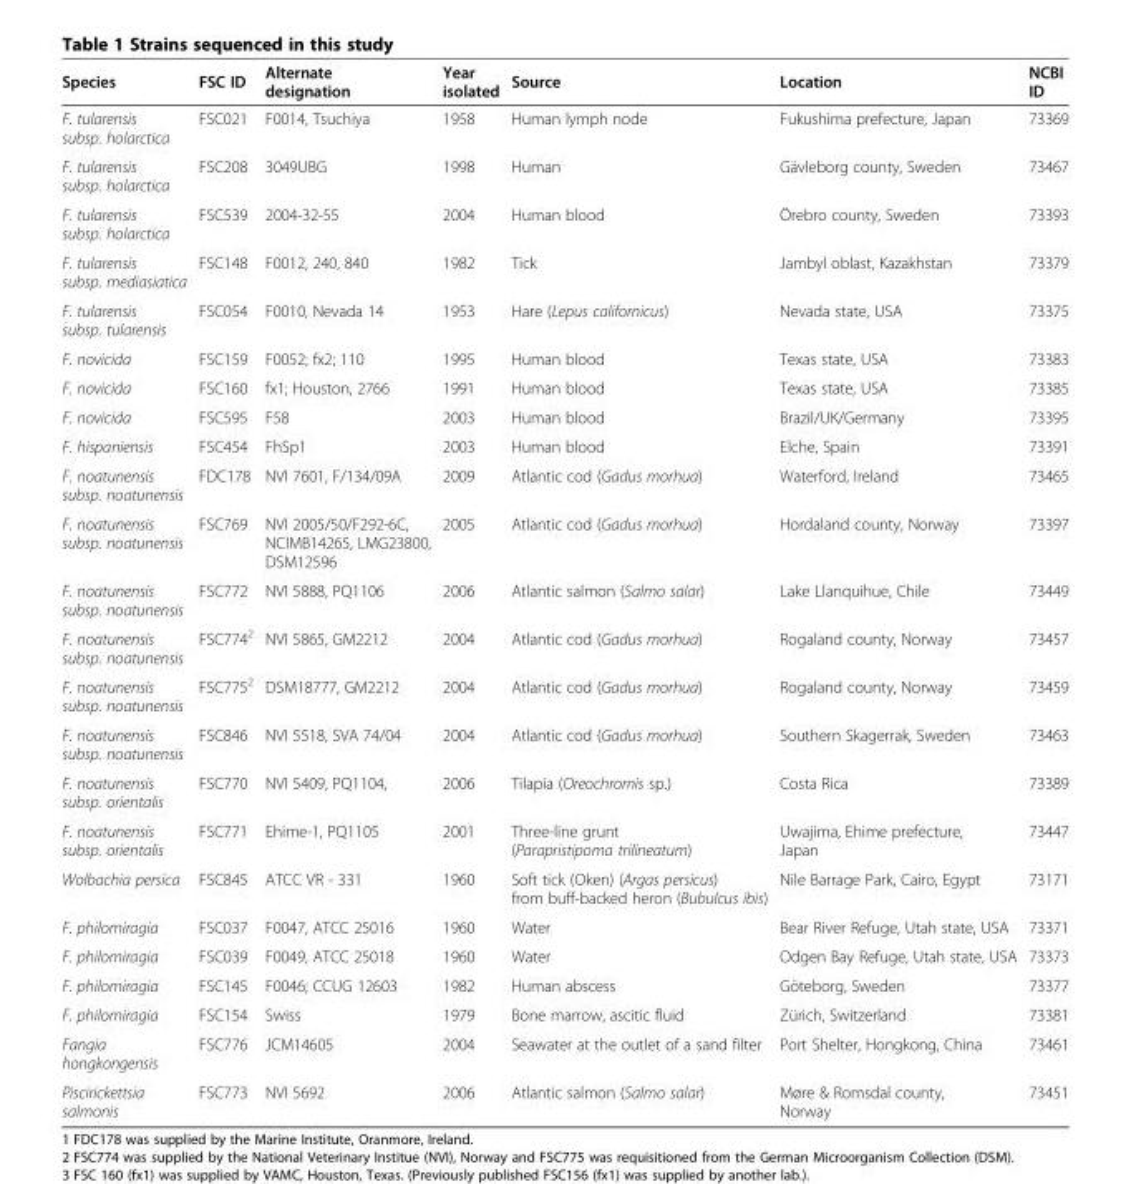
<table><thead><tr><td>Species</td><td>FSC ID</td><td>Alternate designation</td><td>Year isolated</td><td>Source</td><td>Location</td><td>NCBI ID</td></tr></thead><tbody><tr><td>F. tularensis subsp. holarctica</td><td>FSC021</td><td>F0014, Tsuchiya</td><td>1958</td><td>Human lymph node</td><td>Fukushima prefecture, Japan</td><td>73369</td></tr><tr><td>F. tularensis subsp. holarctica</td><td>FSC208</td><td>3049UBG</td><td>1998</td><td>Human</td><td>Gävleborg county, Sweden</td><td>73467</td></tr><tr><td>F. tularensis subsp. holarctica</td><td>FSC539</td><td>2004-32-55</td><td>2004</td><td>Human blood</td><td>Örebro county, Sweden</td><td>73393</td></tr><tr><td>F. tularensis subsp. mediasiatica</td><td>FSC148</td><td>F0012, 240, 840</td><td>1982</td><td>Tick</td><td>Jambyl oblast, Kazakhstan</td><td>73379</td></tr><tr><td>F. tularensis subsp. tularensis</td><td>FSC054</td><td>F0010, Nevada 14</td><td>1953</td><td>Hare (Lepus californicus)</td><td>Nevada state, USA</td><td>73375</td></tr><tr><td>F. novicida</td><td>FSC159</td><td>F0052; fx2; 110</td><td>1995</td><td>Human blood</td><td>Texas state, USA</td><td>73383</td></tr><tr><td>F. novicida</td><td>FSC160</td><td>fx1; Houston, 2766</td><td>1991</td><td>Human blood</td><td>Texas state, USA</td><td>73385</td></tr><tr><td>F. novicida</td><td>FSC595</td><td>F58</td><td>2003</td><td>Human blood</td><td>Brazil/UK/Germany</td><td>73395</td></tr><tr><td>F. hispaniensis</td><td>FSC454</td><td>FhSp1</td><td>2003</td><td>Human blood</td><td>Elche, Spain</td><td>73391</td></tr><tr><td>F. noatunensis subsp. noatunensis</td><td>FDC178</td><td>NVI 7601, F/134/09A</td><td>2009</td><td>Atlantic cod (Gadus morhua)</td><td>Waterford, Ireland</td><td>73465</td></tr><tr><td>F. noatunensis subsp. noatunensis</td><td>FSC769</td><td>NVI 2005/50/F292-6C, NCIMB14265, LMG23800, DSM12596</td><td>2005</td><td>Atlantic cod (Gadus morhua)</td><td>Hordaland county, Norway</td><td>73397</td></tr><tr><td>F. noatunensis subsp. noatunensis</td><td>FSC772</td><td>NVI 5888, PQ1106</td><td>2006</td><td>Atlantic salmon (Salmo salar)</td><td>Lake Llanquihue, Chile</td><td>73449</td></tr><tr><td>F. noatunensis subsp. noatunensis</td><td>FSC774<sup>2</sup></td><td>NVI 5865, GM2212</td><td>2004</td><td>Atlantic cod (Gadus morhua)</td><td>Rogaland county, Norway</td><td>73457</td></tr><tr><td>F. noatunensis subsp. noatunensis</td><td>FSC775<sup>2</sup></td><td>DSM18777, GM2212</td><td>2004</td><td>Atlantic cod (Gadus morhua)</td><td>Rogaland county, Norway</td><td>73459</td></tr><tr><td>F. noatunensis subsp. noatunensis</td><td>FSC846</td><td>NVI 5518, SVA 74/04</td><td>2004</td><td>Atlantic cod (Gadus morhua)</td><td>Southern Skagerrak, Sweden</td><td>73463</td></tr><tr><td>F. noatunensis subsp. orientalis</td><td>FSC770</td><td>NVI 5409, PQ1104,</td><td>2006</td><td>Tilapia (Oreochromis sp.)</td><td>Costa Rica</td><td>73389</td></tr><tr><td>F. noatunensis subsp. orientalis</td><td>FSC771</td><td>Ehime-1, PQ1105</td><td>2001</td><td>Three-line grunt (Parapristipoma trilineatum)</td><td>Uwajima, Ehime prefecture, Japan</td><td>73447</td></tr><tr><td>Wolbachia persica</td><td>FSC845</td><td>ATCC VR - 331</td><td>1960</td><td>Soft tick (Oken) (Argas persicus) from buff-backed heron (Bubulcus ibis)</td><td>Nile Barrage Park, Cairo, Egypt</td><td>73171</td></tr><tr><td>F. philomiragia</td><td>FSC037</td><td>F0047, ATCC 25016</td><td>1960</td><td>Water</td><td>Bear River Refuge, Utah state, USA</td><td>73371</td></tr><tr><td>F. philomiragia</td><td>FSC039</td><td>F0049, ATCC 25018</td><td>1960</td><td>Water</td><td>Odgen Bay Refuge, Utah state, USA</td><td>73373</td></tr><tr><td>F. philomiragia</td><td>FSC145</td><td>F0046; CCUG 12603</td><td>1982</td><td>Human abscess</td><td>Göteborg, Sweden</td><td>73377</td></tr><tr><td>F. philomiragia</td><td>FSC154</td><td>Swiss</td><td>1979</td><td>Bone marrow, ascitic fluid</td><td>Zürich, Switzerland</td><td>73381</td></tr><tr><td>Fangia hongkongensis</td><td>FSC776</td><td>JCM14605</td><td>2004</td><td>Seawater at the outlet of a sand filter</td><td>Port Shelter, Hongkong, China</td><td>73461</td></tr><tr><td>Piscirickettsia salmonis</td><td>FSC773</td><td>NVI 5692</td><td>2006</td><td>Atlantic salmon (Salmo salar)</td><td>Møre &amp; Romsdal county, Norway</td><td>73451</td></tr></tbody></table>